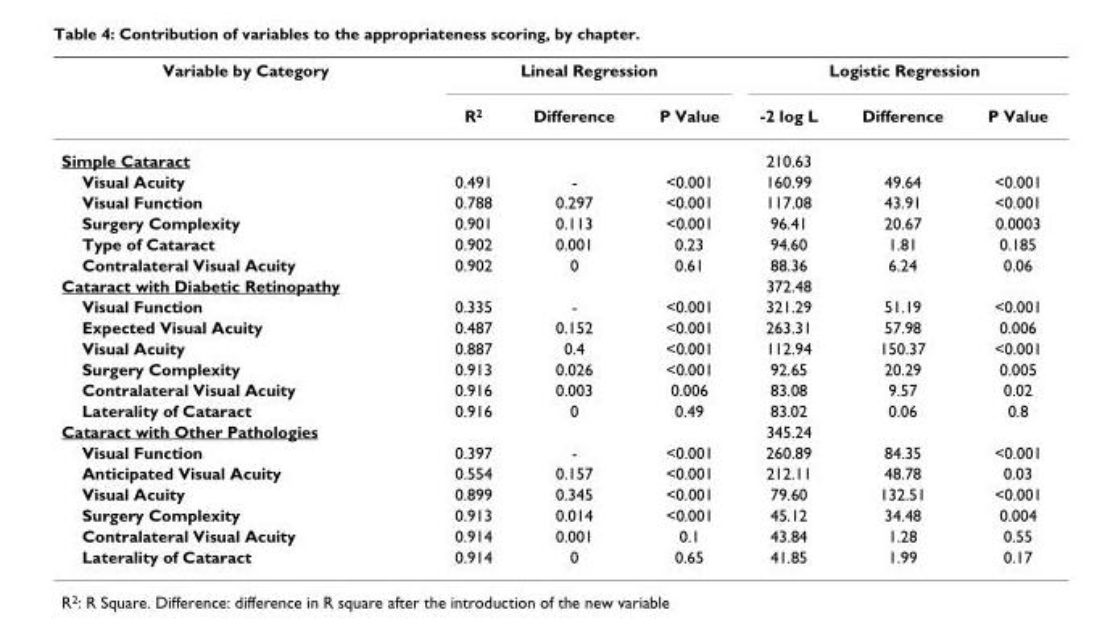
<table><thead><tr><td rowspan="2">Variable by Category</td><td colspan="3">Lineal Regression</td><td colspan="3">Logistic Regression</td></tr><tr><td>R2</td><td>Difference</td><td>P Value</td><td>-2 log L</td><td>Difference</td><td>P Value</td></tr></thead><tbody><tr><td>Simple Cataract</td><td></td><td></td><td></td><td>210.63</td><td></td><td></td></tr><tr><td>Visual Acuity</td><td>0.491</td><td>-</td><td>&lt;0.001</td><td>160.99</td><td>49.64</td><td>&lt;0.001</td></tr><tr><td>Visual Function</td><td>0.788</td><td>0.297</td><td>&lt;0.001</td><td>117.08</td><td>43.91</td><td>&lt;0.001</td></tr><tr><td>Surgery Complexity</td><td>0.901</td><td>0.113</td><td>&lt;0.001</td><td>96.41</td><td>20.67</td><td>0.0003</td></tr><tr><td>Type of Cataract</td><td>0.902</td><td>0.001</td><td>0.23</td><td>94.60</td><td>1.81</td><td>0.185</td></tr><tr><td>Contralateral Visual Acuity</td><td>0.902</td><td>0</td><td>0.61</td><td>88.36</td><td>6.24</td><td>0.06</td></tr><tr><td>Cataract with Diabetic Retinopathy</td><td></td><td></td><td></td><td>372.48</td><td></td><td></td></tr><tr><td>Visual Function</td><td>0.335</td><td>-</td><td>&lt;0.001</td><td>321.29</td><td>51.19</td><td>&lt;0.001</td></tr><tr><td>Expected Visual Acuity</td><td>0.487</td><td>0.152</td><td>&lt;0.001</td><td>263.31</td><td>57.98</td><td>0.006</td></tr><tr><td>Visual Acuity</td><td>0.887</td><td>0.4</td><td>&lt;0.001</td><td>112.94</td><td>150.37</td><td>&lt;0.001</td></tr><tr><td>Surgery Complexity</td><td>0.913</td><td>0.026</td><td>&lt;0.001</td><td>92.65</td><td>20.29</td><td>0.005</td></tr><tr><td>Contralateral Visual Acuity</td><td>0.916</td><td>0.003</td><td>0.006</td><td>83.08</td><td>9.57</td><td>0.02</td></tr><tr><td>Laterality of Cataract</td><td>0.916</td><td>0</td><td>0.49</td><td>83.02</td><td>0.06</td><td>0.8</td></tr><tr><td>Cataract with Other Pathologies</td><td></td><td></td><td></td><td>345.24</td><td></td><td></td></tr><tr><td>Visual Function</td><td>0.397</td><td>-</td><td>&lt;0.001</td><td>260.89</td><td>84.35</td><td>&lt;0.001</td></tr><tr><td>Anticipated Visual Acuity</td><td>0.554</td><td>0.157</td><td>&lt;0.001</td><td>212.11</td><td>48.78</td><td>0.03</td></tr><tr><td>Visual Acuity</td><td>0.899</td><td>0.345</td><td>&lt;0.001</td><td>79.60</td><td>132.51</td><td>&lt;0.001</td></tr><tr><td>Surgery Complexity</td><td>0.913</td><td>0.014</td><td>&lt;0.001</td><td>45.12</td><td>34.48</td><td>0.004</td></tr><tr><td>Contralateral Visual Acuity</td><td>0.914</td><td>0.001</td><td>0.1</td><td>43.84</td><td>1.28</td><td>0.55</td></tr><tr><td>Laterality of Cataract</td><td>0.914</td><td>0</td><td>0.65</td><td>41.85</td><td>1.99</td><td>0.17</td></tr></tbody></table>